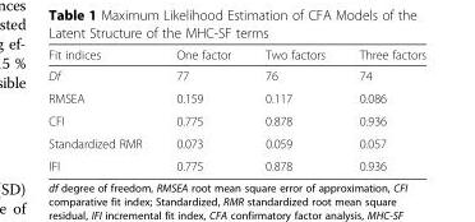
<table><thead><tr><td>Fit indices</td><td>One factor</td><td>Two factors</td><td>Three factors</td></tr></thead><tbody><tr><td>Df</td><td>77</td><td>76</td><td>74</td></tr><tr><td>RMSEA</td><td>0.159</td><td>0.117</td><td>0.086</td></tr><tr><td>CFI</td><td>0.775</td><td>0.878</td><td>0.936</td></tr><tr><td>Standardized RMR</td><td>0.073</td><td>0.059</td><td>0.057</td></tr><tr><td>IFI</td><td>0.775</td><td>0.878</td><td>0.936</td></tr></tbody></table>